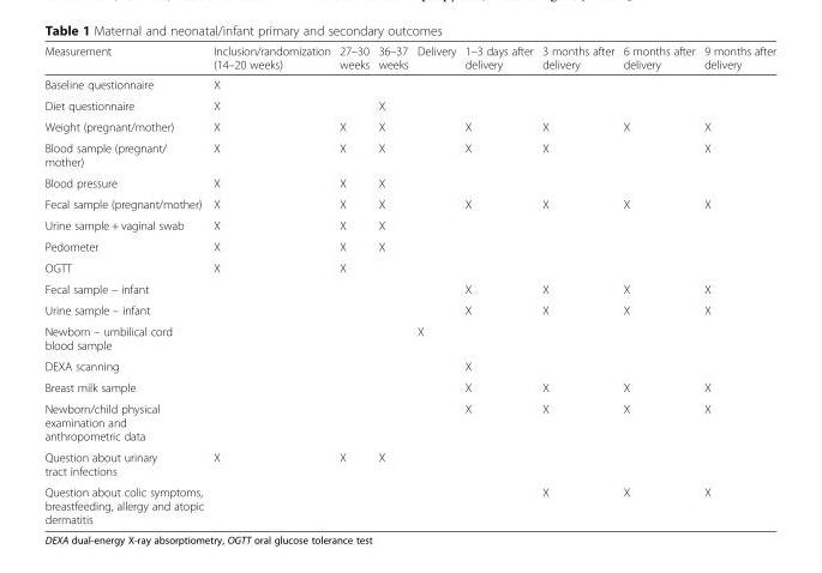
<table><thead><tr><td>Measurement</td><td>Inclusion/randomization (14–20 weeks)</td><td>27–30 weeks</td><td>36–37 weeks</td><td>Delivery</td><td>1–3 days after delivery</td><td>3 months after delivery</td><td>6 months after delivery</td><td>9 months after delivery</td></tr></thead><tbody><tr><td>Baseline questionnaire</td><td>X</td><td></td><td></td><td></td><td></td><td></td><td></td><td></td></tr><tr><td>Diet questionnaire</td><td>X</td><td></td><td>X</td><td></td><td></td><td></td><td></td><td></td></tr><tr><td>Weight (pregnant/mother)</td><td>X</td><td>X</td><td>X</td><td></td><td>X</td><td>X</td><td>X</td><td>X</td></tr><tr><td>Blood sample (pregnant/ mother)</td><td>X</td><td>X</td><td>X</td><td></td><td>X</td><td>X</td><td></td><td>X</td></tr><tr><td>Blood pressure</td><td>X</td><td>X</td><td>X</td><td></td><td></td><td></td><td></td><td></td></tr><tr><td>Fecal sample (pregnant/mother)</td><td>X</td><td>X</td><td>X</td><td></td><td>X</td><td>X</td><td>X</td><td>X</td></tr><tr><td>Urine sample + vaginal swab</td><td>X</td><td>X</td><td>X</td><td></td><td></td><td></td><td></td><td></td></tr><tr><td>Pedometer</td><td>X</td><td>X</td><td>X</td><td></td><td></td><td></td><td></td><td></td></tr><tr><td>OGTT</td><td>X</td><td>X</td><td></td><td></td><td></td><td></td><td></td><td></td></tr><tr><td>Fecal sample – infant</td><td></td><td></td><td></td><td></td><td>X</td><td>X</td><td>X</td><td>X</td></tr><tr><td>Urine sample – infant</td><td></td><td></td><td></td><td></td><td>X</td><td>X</td><td>X</td><td>X</td></tr><tr><td>Newborn – umbilical cord blood sample</td><td></td><td></td><td></td><td>X</td><td></td><td></td><td></td><td></td></tr><tr><td>DEXA scanning</td><td></td><td></td><td></td><td></td><td>X</td><td></td><td></td><td></td></tr><tr><td>Breast milk sample</td><td></td><td></td><td></td><td></td><td>X</td><td>X</td><td>X</td><td>X</td></tr><tr><td>Newborn/child physical examination and anthropometric data</td><td></td><td></td><td></td><td></td><td>X</td><td>X</td><td>X</td><td>X</td></tr><tr><td>Question about urinary tract infections</td><td>X</td><td>X</td><td>X</td><td></td><td></td><td></td><td></td><td></td></tr><tr><td>Question about colic symptoms, breastfeeding, allergy and atopic dermatitis</td><td></td><td></td><td></td><td></td><td></td><td>X</td><td>X</td><td>X</td></tr></tbody></table>